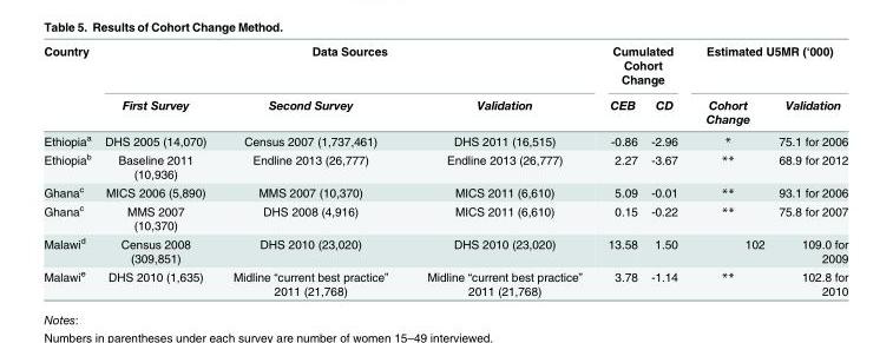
<table><thead><tr><td rowspan="2">Country</td><td colspan="3">Data Sources</td><td colspan="2">Cumulated Cohort Change</td><td colspan="2">Estimated U5MR (‘000)</td></tr><tr><td>First Survey</td><td>Second Survey</td><td>Validation</td><td>CEB</td><td>CD</td><td>Cohort Change</td><td>Validation</td></tr></thead><tbody><tr><td>Ethiopia<sup>a</sup></td><td>DHS 2005 (14,070)</td><td>Census 2007 (1,737,461)</td><td>DHS 2011 (16,515)</td><td>-0.86</td><td>-2.96</td><td>*</td><td>75.1 for 2006</td></tr><tr><td>Ethiopia<sup>b</sup></td><td>Baseline 2011 (10,936)</td><td>Endline 2013 (26,777)</td><td>Endline 2013 (26,777)</td><td>2.27</td><td>-3.67</td><td>**</td><td>68.9 for 2012</td></tr><tr><td>Ghana<sup>c</sup></td><td>MICS 2006 (5,890)</td><td>MMS 2007 (10,370)</td><td>MICS 2011 (6,610)</td><td>5.09</td><td>-0.01</td><td>**</td><td>93.1 for 2006</td></tr><tr><td>Ghana<sup>c</sup></td><td>MMS 2007 (10,370)</td><td>DHS 2008 (4,916)</td><td>MICS 2011 (6,610)</td><td>0.15</td><td>-0.22</td><td>**</td><td>75.8 for 2007</td></tr><tr><td>Malawi<sup>d</sup></td><td>Census 2008 (309,851)</td><td>DHS 2010 (23,020)</td><td>DHS 2010 (23,020)</td><td>13.58</td><td>1.50</td><td>102</td><td>109.0 for 2009</td></tr><tr><td>Malawi<sup>e</sup></td><td>DHS 2010 (1,635)</td><td>Midline “current best practice” 2011 (21,768)</td><td>Midline “current best practice” 2011 (21,768)</td><td>3.78</td><td>-1.14</td><td>**</td><td>102.8 for 2010</td></tr></tbody></table>